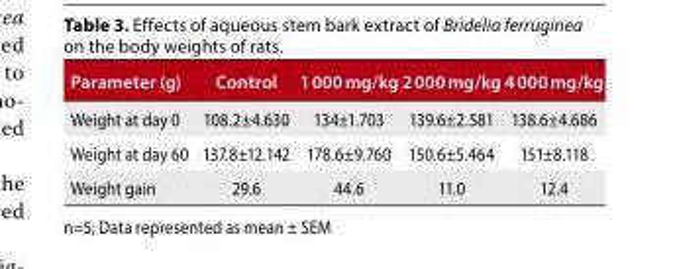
<table><thead><tr><td>Parameter (g)</td><td>Control</td><td>1 000 mg/kg</td><td>2 000 mg/kg</td><td>4 000 mg/kg</td></tr></thead><tbody><tr><td>Weight at day 0</td><td>108.2±4.630</td><td>134±1.703</td><td>139.6±2.581</td><td>138.6±4.686</td></tr><tr><td>Weight at day 60</td><td>137.8±12.142</td><td>178.6±9.760</td><td>150.6±5.464</td><td>151±8.118</td></tr><tr><td>Weight gain</td><td>29.6</td><td>44.6</td><td>11.0</td><td>12.4</td></tr></tbody></table>